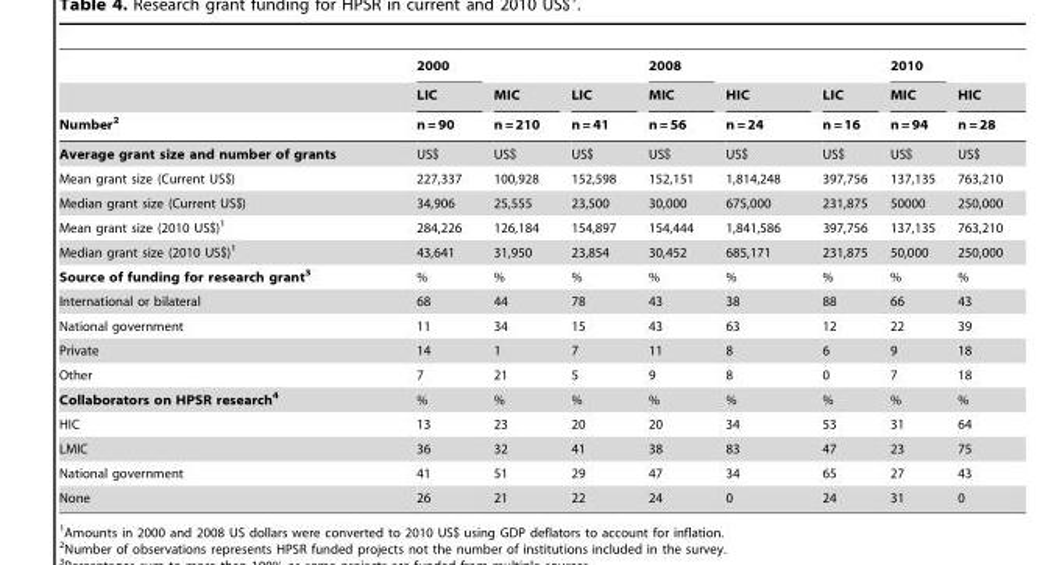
<table><thead><tr><td rowspan="3">Number<sup>2</sup></td><td rowspan="3">2000 LIC n = 90</td><td rowspan="3">MIC n = 210</td><td rowspan="3">LIC n = 41</td><td rowspan="3">2008 MIC n = 56</td><td rowspan="3">HIC n = 24</td><td rowspan="3">LIC n = 16</td><td rowspan="3">2010 MIC n = 94</td><td rowspan="3">HIC n = 28</td></tr><tr></tr><tr></tr></thead><tbody><tr><td>Average grant size and number of grants</td><td>US$</td><td>US$</td><td>US$</td><td>US$</td><td>US$</td><td>US$</td><td>US$</td><td>US$</td></tr><tr><td>Mean grant size (Current US$)</td><td>227,337</td><td>100,928</td><td>152,598</td><td>152,151</td><td>1,814,248</td><td>397,756</td><td>137,135</td><td>763,210</td></tr><tr><td>Median grant size (Current US$)</td><td>34,906</td><td>25,555</td><td>23,500</td><td>30,000</td><td>675,000</td><td>231,875</td><td>50000</td><td>250,000</td></tr><tr><td>Mean grant size (2010 US$)<sup>1</sup></td><td>284,226</td><td>126,184</td><td>154,897</td><td>154,444</td><td>1,841,586</td><td>397,756</td><td>137,135</td><td>763,210</td></tr><tr><td>Median grant size (2010 US$)<sup>1</sup></td><td>43,641</td><td>31,950</td><td>23,854</td><td>30,452</td><td>685,171</td><td>231,875</td><td>50,000</td><td>250,000</td></tr><tr><td>Source of funding for research grant3</td><td>%</td><td>%</td><td>%</td><td>%</td><td>%</td><td>%</td><td>%</td><td>%</td></tr><tr><td>International or bilateral</td><td>68</td><td>44</td><td>78</td><td>43</td><td>38</td><td>88</td><td>66</td><td>43</td></tr><tr><td>National government</td><td>11</td><td>34</td><td>15</td><td>43</td><td>63</td><td>12</td><td>22</td><td>39</td></tr><tr><td>Private</td><td>14</td><td>1</td><td>7</td><td>11</td><td>8</td><td>6</td><td>9</td><td>18</td></tr><tr><td>Other</td><td>7</td><td>21</td><td>5</td><td>9</td><td>8</td><td>0</td><td>7</td><td>18</td></tr><tr><td>Collaborators on HPSR research4</td><td>%</td><td>%</td><td>%</td><td>%</td><td>%</td><td>%</td><td>%</td><td>%</td></tr><tr><td>HIC</td><td>13</td><td>23</td><td>20</td><td>20</td><td>34</td><td>53</td><td>31</td><td>64</td></tr><tr><td>LMIC</td><td>36</td><td>32</td><td>41</td><td>38</td><td>83</td><td>47</td><td>23</td><td>75</td></tr><tr><td>National government</td><td>41</td><td>51</td><td>29</td><td>47</td><td>34</td><td>65</td><td>27</td><td>43</td></tr><tr><td>None</td><td>26</td><td>21</td><td>22</td><td>24</td><td>0</td><td>24</td><td>31</td><td>0</td></tr></tbody></table>